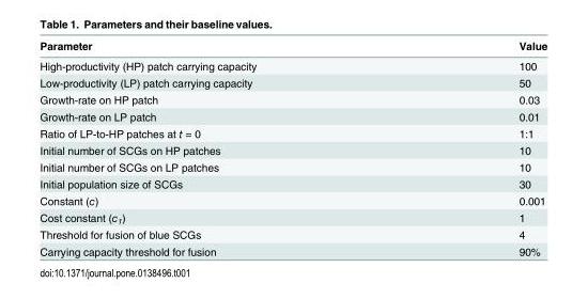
<table><thead><tr><td>Parameter</td><td>Value</td></tr></thead><tbody><tr><td>High-productivity (HP) patch carrying capacity</td><td>100</td></tr><tr><td>Low-productivity (LP) patch carrying capacity</td><td>50</td></tr><tr><td>Growth-rate on HP patch</td><td>0.03</td></tr><tr><td>Growth-rate on LP patch</td><td>0.01</td></tr><tr><td>Ratio of LP-to-HP patches at t = 0</td><td>1:1</td></tr><tr><td>Initial number of SCGs on HP patches</td><td>10</td></tr><tr><td>Initial number of SCGs on LP patches</td><td>10</td></tr><tr><td>Initial population size of SCGs</td><td>30</td></tr><tr><td>Constant (c)</td><td>0.001</td></tr><tr><td>Cost constant (c<sub>1</sub>)</td><td>1</td></tr><tr><td>Threshold for fusion of blue SCGs</td><td>4</td></tr><tr><td>Carrying capacity threshold for fusion</td><td>90%</td></tr></tbody></table>